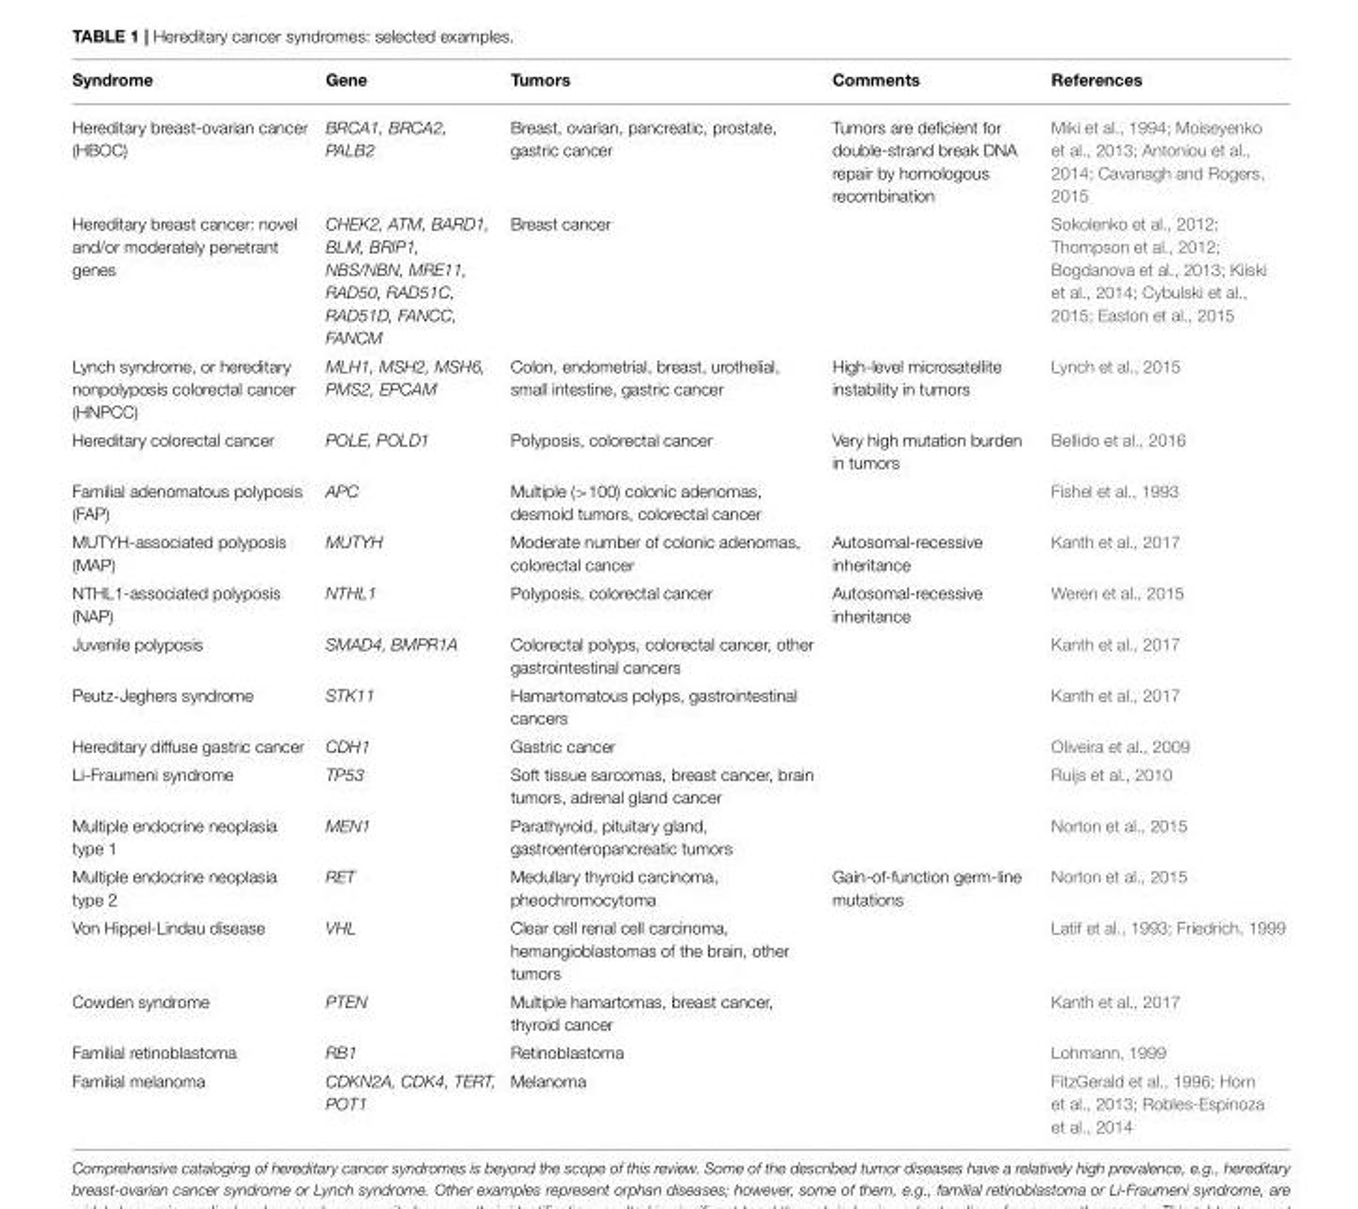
<table><thead><tr><td>Syndrome</td><td>Gene</td><td>Tumors</td><td>Comments</td><td>References</td></tr></thead><tbody><tr><td>Hereditary breast-ovarian cancer (HBOC)</td><td>BRCA1, BRCA2, PALB2</td><td>Breast, ovarian, pancreatic, prostate, gastric cancer</td><td>Tumors are deficient for double-strand break DNA repair by homologous recombination</td><td>Miki et al., 1994; Moiseyenko et al., 2013; Antoniou et al., 2014; Cavanagh and Rogers, 2015</td></tr><tr><td>Hereditary breast cancer: novel and/or moderately penetrant genes</td><td>CHEK2, ATM, BARD1, BLM, BRIP1, NBS/NBN, MRE11, RAD50, RAD51C, RAD51D, FANCC, FANCM</td><td>Breast cancer</td><td></td><td>Sokolenko et al., 2012; Thompson et al., 2012; Bogdanova et al., 2013; Kiiski et al., 2014; Cybulski et al., 2015; Easton et al., 2015</td></tr><tr><td>Lynch syndrome, or hereditary nonpolyposis colorectal cancer (HNPCC)</td><td>MLH1, MSH2, MSH6, PMS2, EPCAM</td><td>Colon, endometrial, breast, urothelial, small intestine, gastric cancer</td><td>High-level microsatellite instability in tumors</td><td>Lynch et al., 2015</td></tr><tr><td>Hereditary colorectal cancer</td><td>POLE, POLD1</td><td>Polyposis, colorectal cancer</td><td>Very high mutation burden in tumors</td><td>Bellido et al., 2016</td></tr><tr><td>Familial adenomatous polyposis (FAP)</td><td>APC</td><td>Multiple (&gt;100) colonic adenomas, desmoid tumors, colorectal cancer</td><td></td><td>Fishel et al., 1993</td></tr><tr><td>MUTYH-associated polyposis (MAP)</td><td>MUTYH</td><td>Moderate number of colonic adenomas, colorectal cancer</td><td>Autosomal-recessive inheritance</td><td>Kanth et al., 2017</td></tr><tr><td>NTHL1-associated polyposis (NAP)</td><td>NTHL1</td><td>Polyposis, colorectal cancer</td><td>Autosomal-recessive inheritance</td><td>Weren et al., 2015</td></tr><tr><td>Juvenile polyposis</td><td>SMAD4, BMPR1A</td><td>Colorectal polyps, colorectal cancer, other gastrointestinal cancers</td><td></td><td>Kanth et al., 2017</td></tr><tr><td>Peutz-Jeghers syndrome</td><td>STK11</td><td>Hamartomatous polyps, gastrointestinal cancers</td><td></td><td>Kanth et al., 2017</td></tr><tr><td>Hereditary diffuse gastric cancer</td><td>CDH1</td><td>Gastric cancer</td><td></td><td>Oliveira et al., 2009</td></tr><tr><td>Li-Fraumeni syndrome</td><td>TP53</td><td>Soft tissue sarcomas, breast cancer, brain tumors, adrenal gland cancer</td><td></td><td>Ruijs et al., 2010</td></tr><tr><td>Multiple endocrine neoplasia type 1</td><td>MEN1</td><td>Parathyroid, pituitary gland, gastroenteropancreatic tumors</td><td></td><td>Norton et al., 2015</td></tr><tr><td>Multiple endocrine neoplasia type 2</td><td>RET</td><td>Medullary thyroid carcinoma, pheochromocytoma</td><td>Gain-of-function germ-line mutations</td><td>Norton et al., 2015</td></tr><tr><td>Von Hippel-Lindau disease</td><td>VHL</td><td>Clear cell renal cell carcinoma, hemangioblastomas of the brain, other tumors</td><td></td><td>Latif et al., 1993; Friedrich, 1999</td></tr><tr><td>Cowden syndrome</td><td>PTEN</td><td>Multiple hamartomas, breast cancer, thyroid cancer</td><td></td><td>Kanth et al., 2017</td></tr><tr><td>Familial retinoblastoma</td><td>RB1</td><td>Retinoblastoma</td><td></td><td>Lohmann, 1999</td></tr><tr><td>Familial melanoma</td><td>CDKN2A, CDK4, TERT, POT1</td><td>Melanoma</td><td></td><td>FitzGerald et al., 1996; Horn et al., 2013; Robles-Espinoza et al., 2014</td></tr></tbody></table>